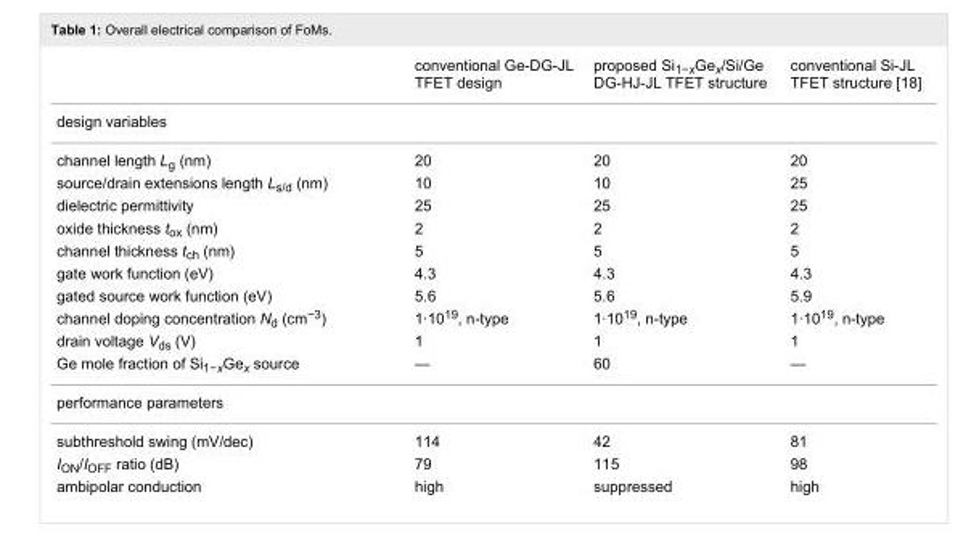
<table><thead><tr><td></td><td>conventional Ge-DG-JL TFET design</td><td>proposed Si<sub>1−x</sub>Ge<sub>x</sub>/Si/Ge DG-HJ-JL TFET structure</td><td>conventional Si-JL TFET structure [18]</td></tr></thead><tbody><tr><td colspan="4">design variables</td></tr><tr><td>channel length L<sub>g</sub> (nm)</td><td>20</td><td>20</td><td>20</td></tr><tr><td>source/drain extensions length L<sub>s/d</sub> (nm)</td><td>10</td><td>10</td><td>25</td></tr><tr><td>dielectric permittivity</td><td>25</td><td>25</td><td>25</td></tr><tr><td>oxide thickness t<sub>ox</sub> (nm)</td><td>2</td><td>2</td><td>2</td></tr><tr><td>channel thickness t<sub>ch</sub> (nm)</td><td>5</td><td>5</td><td>5</td></tr><tr><td>gate work function (eV)</td><td>4.3</td><td>4.3</td><td>4.3</td></tr><tr><td>gated source work function (eV)</td><td>5.6</td><td>5.6</td><td>5.9</td></tr><tr><td>channel doping concentration N<sub>d</sub> (cm<sup>−3</sup>)</td><td>1·10<sup>19</sup>, n-type</td><td>1·10<sup>19</sup>, n-type</td><td>1·10<sup>19</sup>, n-type</td></tr><tr><td>drain voltage V<sub>ds</sub> (V)</td><td>1</td><td>1</td><td>1</td></tr><tr><td>Ge mole fraction of Si<sub>1−x</sub>Ge<sub>x</sub> source</td><td>—</td><td>60</td><td>—</td></tr><tr><td colspan="4">performance parameters</td></tr><tr><td>subthreshold swing (mV/dec)</td><td>114</td><td>42</td><td>81</td></tr><tr><td>I<sub>ON</sub>/I<sub>OFF</sub> ratio (dB)</td><td>79</td><td>115</td><td>98</td></tr><tr><td>ambipolar conduction</td><td>high</td><td>suppressed</td><td>high</td></tr></tbody></table>